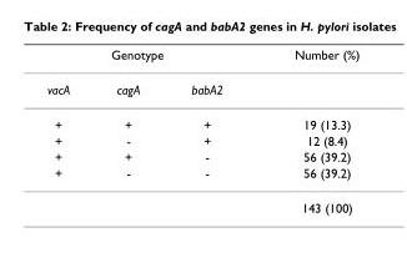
<table><thead><tr><td colspan="3">Genotype</td><td rowspan="2">Number (%)</td></tr><tr><td>vacA</td><td>cagA</td><td>babA2</td></tr></thead><tbody><tr><td>+</td><td>+</td><td>+</td><td>19 (13.3)</td></tr><tr><td>+</td><td>-</td><td>+</td><td>12 (8.4)</td></tr><tr><td>+</td><td>+</td><td>-</td><td>56 (39.2)</td></tr><tr><td rowspan="2">+</td><td>-</td><td>-</td><td>56 (39.2)</td></tr><tr><td></td><td></td><td>143 (100)</td></tr></tbody></table>